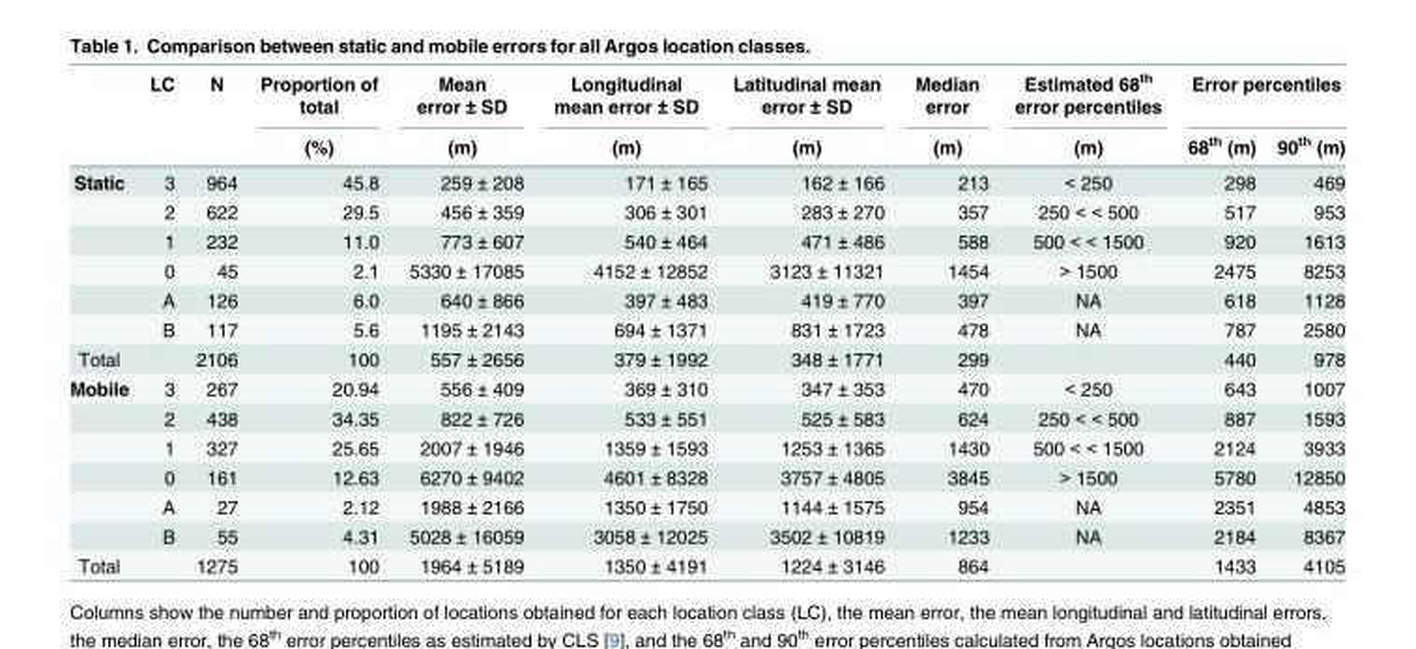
<table><thead><tr><td rowspan="2"></td><td rowspan="2">LC</td><td rowspan="2">N</td><td rowspan="2">Proportion of total (%)</td><td rowspan="2">Mean error ± SD (m)</td><td rowspan="2">Longitudinal mean error ± SD (m)</td><td rowspan="2">Latitudinal mean error ± SD (m)</td><td rowspan="2">Median error (m)</td><td rowspan="2">Estimated 68<sup>th</sup> error percentiles (m)</td><td colspan="2">Error percentiles</td></tr><tr><td>68<sup>th</sup> (m)</td><td>90<sup>th</sup> (m)</td></tr></thead><tbody><tr><td rowspan="6">Static</td><td>3</td><td>964</td><td>45.8</td><td>259 ± 208</td><td>171 ± 165</td><td>162 ± 166</td><td>213</td><td>&lt; 250</td><td>298</td><td>469</td></tr><tr><td>2</td><td>622</td><td>29.5</td><td>456 ± 359</td><td>306 ± 301</td><td>283 ± 270</td><td>357</td><td>250 &lt; &lt; 500</td><td>517</td><td>953</td></tr><tr><td>1</td><td>232</td><td>11.0</td><td>773 ± 607</td><td>540 ± 464</td><td>471 ± 486</td><td>588</td><td>500 &lt; &lt; 1500</td><td>920</td><td>1613</td></tr><tr><td>0</td><td>45</td><td>2.1</td><td>5330 ± 17085</td><td>4152 ± 12852</td><td>3123 ± 11321</td><td>1454</td><td>&gt; 1500</td><td>2475</td><td>8253</td></tr><tr><td>A</td><td>126</td><td>6.0</td><td>640 ± 866</td><td>397 ± 483</td><td>419 ± 770</td><td>397</td><td>NA</td><td>618</td><td>1128</td></tr><tr><td>B</td><td>117</td><td>5.6</td><td>1195 ± 2143</td><td>694 ± 1371</td><td>831 ± 1723</td><td>478</td><td>NA</td><td>787</td><td>2580</td></tr><tr><td>Total</td><td></td><td>2106</td><td>100</td><td>557 ± 2656</td><td>379 ± 1992</td><td>348 ± 1771</td><td>299</td><td></td><td>440</td><td>978</td></tr><tr><td rowspan="6">Mobile</td><td>3</td><td>267</td><td>20.94</td><td>556 ± 409</td><td>369 ± 310</td><td>347 ± 353</td><td>470</td><td>&lt; 250</td><td>643</td><td>1007</td></tr><tr><td>2</td><td>438</td><td>34.35</td><td>822 ± 726</td><td>533 ± 551</td><td>525 ± 583</td><td>624</td><td>250 &lt; &lt; 500</td><td>887</td><td>1593</td></tr><tr><td>1</td><td>327</td><td>25.65</td><td>2007 ± 1946</td><td>1359 ± 1593</td><td>1253 ± 1365</td><td>1430</td><td>500 &lt; &lt; 1500</td><td>2124</td><td>3933</td></tr><tr><td>0</td><td>161</td><td>12.63</td><td>6270 ± 9402</td><td>4601 ± 8328</td><td>3757 ± 4805</td><td>3845</td><td>&gt; 1500</td><td>5780</td><td>12850</td></tr><tr><td>A</td><td>27</td><td>2.12</td><td>1988 ± 2166</td><td>1350 ± 1750</td><td>1144 ± 1575</td><td>954</td><td>NA</td><td>2351</td><td>4853</td></tr><tr><td>B</td><td>55</td><td>4.31</td><td>5028 ± 16059</td><td>3058 ± 12025</td><td>3502 ± 10819</td><td>1233</td><td>NA</td><td>2184</td><td>8367</td></tr><tr><td>Total</td><td></td><td>1275</td><td>100</td><td>1964 ± 5189</td><td>1350 ± 4191</td><td>1224 ± 3146</td><td>864</td><td></td><td>1433</td><td>4105</td></tr></tbody></table>